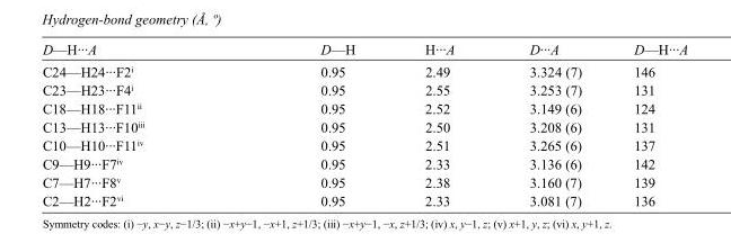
<table><tbody><tr><td>D—H···A</td><td>D—H</td><td>H···A</td><td>D···A</td><td>D—H···A</td></tr><tr><td>C24—H24···F2<sup>i</sup></td><td>0.95</td><td>2.49</td><td>3.324 (7)</td><td>146</td></tr><tr><td>C23—H23···F4<sup>i</sup></td><td>0.95</td><td>2.55</td><td>3.253 (7)</td><td>131</td></tr><tr><td>C18—H18···F11<sup>ii</sup></td><td>0.95</td><td>2.52</td><td>3.149 (6)</td><td>124</td></tr><tr><td>C13—H13···F10<sup>iii</sup></td><td>0.95</td><td>2.50</td><td>3.208 (6)</td><td>131</td></tr><tr><td>C10—H10···F11<sup>iv</sup></td><td>0.95</td><td>2.51</td><td>3.265 (6)</td><td>137</td></tr><tr><td>C9—H9···F7<sup>iv</sup></td><td>0.95</td><td>2.33</td><td>3.136 (6)</td><td>142</td></tr><tr><td>C7—H7···F8<sup>v</sup></td><td>0.95</td><td>2.38</td><td>3.160 (7)</td><td>139</td></tr><tr><td>C2—H2···F2<sup>vi</sup></td><td>0.95</td><td>2.33</td><td>3.081 (7)</td><td>136</td></tr></tbody></table>